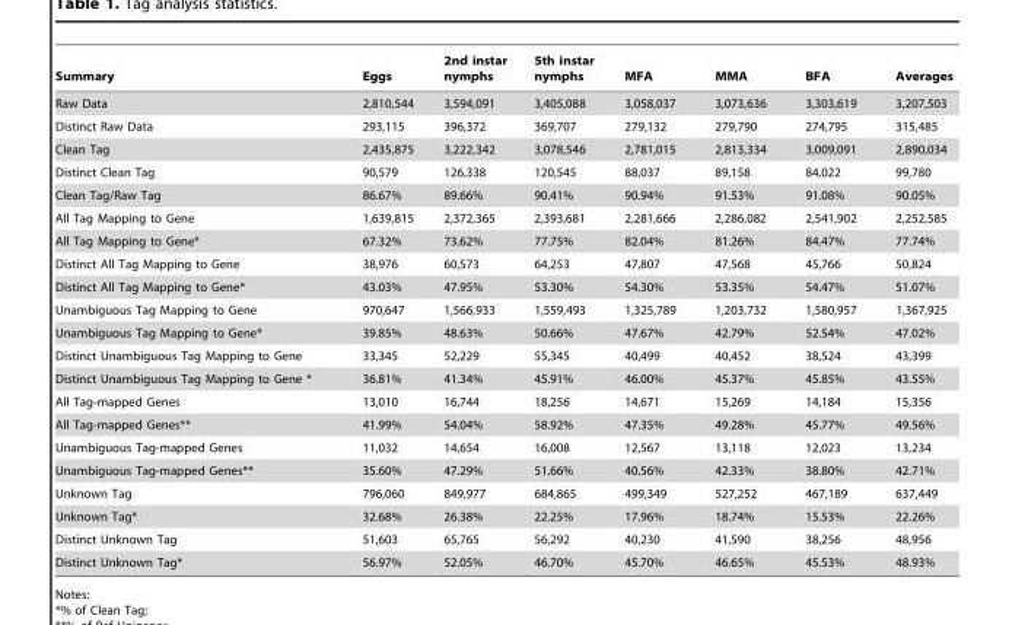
<table><thead><tr><td>Summary</td><td>Eggs</td><td>2nd instar nymphs</td><td>5th instar nymphs</td><td>MFA</td><td>MMA</td><td>BFA</td><td>Averages</td></tr></thead><tbody><tr><td>Raw Data</td><td>2,810,544</td><td>3,594,091</td><td>3,405,088</td><td>3,058,037</td><td>3,073,636</td><td>3,303,619</td><td>3,207,503</td></tr><tr><td>Distinct Raw Data</td><td>293,115</td><td>396,372</td><td>369,707</td><td>279,132</td><td>279,790</td><td>274,795</td><td>315,485</td></tr><tr><td>Clean Tag</td><td>2,435,875</td><td>3,222,342</td><td>3,078,546</td><td>2,781,015</td><td>2,813,334</td><td>3,009,091</td><td>2,890,034</td></tr><tr><td>Distinct Clean Tag</td><td>90,579</td><td>126,338</td><td>120,545</td><td>88,037</td><td>89,158</td><td>84,022</td><td>99,780</td></tr><tr><td>Clean Tag/Raw Tag</td><td>86.67%</td><td>89.66%</td><td>90.41%</td><td>90.94%</td><td>91.53%</td><td>91.08%</td><td>90.05%</td></tr><tr><td>All Tag Mapping to Gene</td><td>1,639,815</td><td>2,372,365</td><td>2,393,681</td><td>2,281,666</td><td>2,286,082</td><td>2,541,902</td><td>2,252,585</td></tr><tr><td>All Tag Mapping to Gene*</td><td>67.32%</td><td>73.62%</td><td>77.75%</td><td>82.04%</td><td>81.26%</td><td>84.47%</td><td>77.74%</td></tr><tr><td>Distinct All Tag Mapping to Gene</td><td>38,976</td><td>60,573</td><td>64,253</td><td>47,807</td><td>47,568</td><td>45,766</td><td>50,824</td></tr><tr><td>Distinct All Tag Mapping to Gene*</td><td>43.03%</td><td>47.95%</td><td>53.30%</td><td>54.30%</td><td>53.35%</td><td>54.47%</td><td>51.07%</td></tr><tr><td>Unambiguous Tag Mapping to Gene</td><td>970,647</td><td>1,566,933</td><td>1,559,493</td><td>1,325,789</td><td>1,203,732</td><td>1,580,957</td><td>1,367,925</td></tr><tr><td>Unambiguous Tag Mapping to Gene*</td><td>39.85%</td><td>48.63%</td><td>50.66%</td><td>47.67%</td><td>42.79%</td><td>52.54%</td><td>47.02%</td></tr><tr><td>Distinct Unambiguous Tag Mapping to Gene</td><td>33,345</td><td>52,229</td><td>55,345</td><td>40,499</td><td>40,452</td><td>38,524</td><td>43,399</td></tr><tr><td>Distinct Unambiguous Tag Mapping to Gene *</td><td>36.81%</td><td>41.34%</td><td>45.91%</td><td>46.00%</td><td>45.37%</td><td>45.85%</td><td>43.55%</td></tr><tr><td>All Tag-mapped Genes</td><td>13,010</td><td>16,744</td><td>18,256</td><td>14,671</td><td>15,269</td><td>14,184</td><td>15,356</td></tr><tr><td>All Tag-mapped Genes**</td><td>41.99%</td><td>54.04%</td><td>58.92%</td><td>47.35%</td><td>49.28%</td><td>45.77%</td><td>49.56%</td></tr><tr><td>Unambiguous Tag-mapped Genes</td><td>11,032</td><td>14,654</td><td>16,008</td><td>12,567</td><td>13,118</td><td>12,023</td><td>13,234</td></tr><tr><td>Unambiguous Tag-mapped Genes**</td><td>35.60%</td><td>47.29%</td><td>51.66%</td><td>40.56%</td><td>42.33%</td><td>38.80%</td><td>42.71%</td></tr><tr><td>Unknown Tag</td><td>796,060</td><td>849,977</td><td>684,865</td><td>499,349</td><td>527,252</td><td>467,189</td><td>637,449</td></tr><tr><td>Unknown Tag*</td><td>32.68%</td><td>26.38%</td><td>22.25%</td><td>17.96%</td><td>18.74%</td><td>15.53%</td><td>22.26%</td></tr><tr><td>Distinct Unknown Tag</td><td>51,603</td><td>65,765</td><td>56,292</td><td>40,230</td><td>41,590</td><td>38,256</td><td>48,956</td></tr><tr><td>Distinct Unknown Tag*</td><td>56.97%</td><td>52.05%</td><td>46.70%</td><td>45.70%</td><td>46.65%</td><td>45.53%</td><td>48.93%</td></tr></tbody></table>